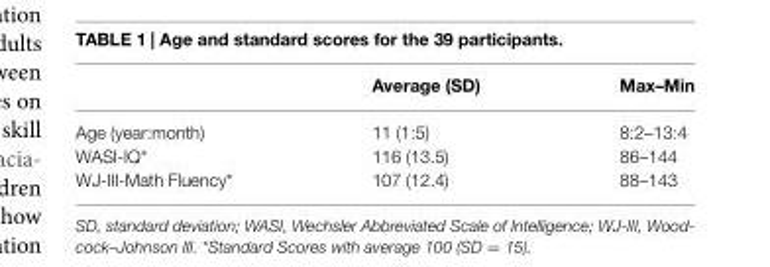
<table><thead><tr><td></td><td>Average (SD)</td><td>Max–Min</td></tr></thead><tbody><tr><td>Age (year:month)</td><td>11 (1:5)</td><td>8:2–13:4</td></tr><tr><td>WASI-IQ*</td><td>116 (13.5)</td><td>86–144</td></tr><tr><td>WJ-III-Math Fluency*</td><td>107 (12.4)</td><td>88–143</td></tr></tbody></table>